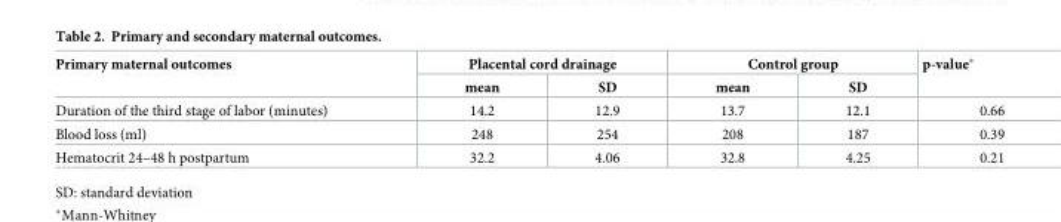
<table><thead><tr><td rowspan="2">Primary maternal outcomes</td><td colspan="2">Placental cord drainage</td><td colspan="2">Control group</td><td rowspan="2">p-value*</td></tr><tr><td>mean</td><td>SD</td><td>mean</td><td>SD</td></tr></thead><tbody><tr><td>Duration of the third stage of labor (minutes)</td><td>14.2</td><td>12.9</td><td>13.7</td><td>12.1</td><td>0.66</td></tr><tr><td>Blood loss (ml)</td><td>248</td><td>254</td><td>208</td><td>187</td><td>0.39</td></tr><tr><td>Hematocrit 24–48 h postpartum</td><td>32.2</td><td>4.06</td><td>32.8</td><td>4.25</td><td>0.21</td></tr></tbody></table>